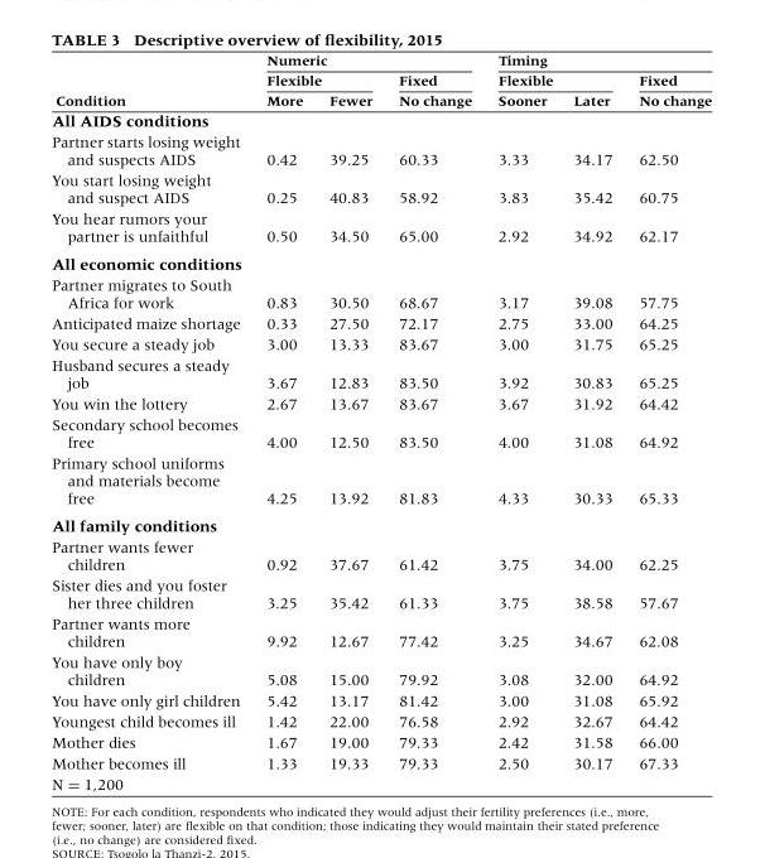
<table><thead><tr><td rowspan="3">Condition</td><td colspan="3">Numeric</td><td colspan="3">Timing</td></tr><tr><td colspan="2">Flexible</td><td rowspan="2">Fixed No change</td><td colspan="2">Flexible</td><td rowspan="2">Fixed No change</td></tr><tr><td>More</td><td>Fewer</td><td>Sooner</td><td>Later</td></tr></thead><tbody><tr><td colspan="7">All AIDS conditions</td></tr><tr><td>Partner starts losing weight and suspects AIDS</td><td>0.42</td><td>39.25</td><td>60.33</td><td>3.33</td><td>34.17</td><td>62.50</td></tr><tr><td>You start losing weight and suspect AIDS</td><td>0.25</td><td>40.83</td><td>58.92</td><td>3.83</td><td>35.42</td><td>60.75</td></tr><tr><td>You hear rumors your partner is unfaithful</td><td>0.50</td><td>34.50</td><td>65.00</td><td>2.92</td><td>34.92</td><td>62.17</td></tr><tr><td colspan="7">All economic conditions</td></tr><tr><td>Partner migrates to South Africa for work</td><td>0.83</td><td>30.50</td><td>68.67</td><td>3.17</td><td>39.08</td><td>57.75</td></tr><tr><td>Anticipated maize shortage</td><td>0.33</td><td>27.50</td><td>72.17</td><td>2.75</td><td>33.00</td><td>64.25</td></tr><tr><td>You secure a steady job</td><td>3.00</td><td>13.33</td><td>83.67</td><td>3.00</td><td>31.75</td><td>65.25</td></tr><tr><td>Husband secures a steady job</td><td>3.67</td><td>12.83</td><td>83.50</td><td>3.92</td><td>30.83</td><td>65.25</td></tr><tr><td>You win the lottery</td><td>2.67</td><td>13.67</td><td>83.67</td><td>3.67</td><td>31.92</td><td>64.42</td></tr><tr><td>Secondary school becomes free</td><td>4.00</td><td>12.50</td><td>83.50</td><td>4.00</td><td>31.08</td><td>64.92</td></tr><tr><td>Primary school uniforms and materials become free</td><td>4.25</td><td>13.92</td><td>81.83</td><td>4.33</td><td>30.33</td><td>65.33</td></tr><tr><td colspan="7">All family conditions</td></tr><tr><td>Partner wants fewer children</td><td>0.92</td><td>37.67</td><td>61.42</td><td>3.75</td><td>34.00</td><td>62.25</td></tr><tr><td>Sister dies and you foster her three children</td><td>3.25</td><td>35.42</td><td>61.33</td><td>3.75</td><td>38.58</td><td>57.67</td></tr><tr><td>Partner wants more children</td><td>9.92</td><td>12.67</td><td>77.42</td><td>3.25</td><td>34.67</td><td>62.08</td></tr><tr><td>You have only boy children</td><td>5.08</td><td>15.00</td><td>79.92</td><td>3.08</td><td>32.00</td><td>64.92</td></tr><tr><td>You have only girl children</td><td>5.42</td><td>13.17</td><td>81.42</td><td>3.00</td><td>31.08</td><td>65.92</td></tr><tr><td>Youngest child becomes ill</td><td>1.42</td><td>22.00</td><td>76.58</td><td>2.92</td><td>32.67</td><td>64.42</td></tr><tr><td>Mother dies</td><td>1.67</td><td>19.00</td><td>79.33</td><td>2.42</td><td>31.58</td><td>66.00</td></tr><tr><td>Mother becomes ill</td><td>1.33</td><td>19.33</td><td>79.33</td><td>2.50</td><td>30.17</td><td>67.33</td></tr><tr><td colspan="7">N = 1,200</td></tr></tbody></table>